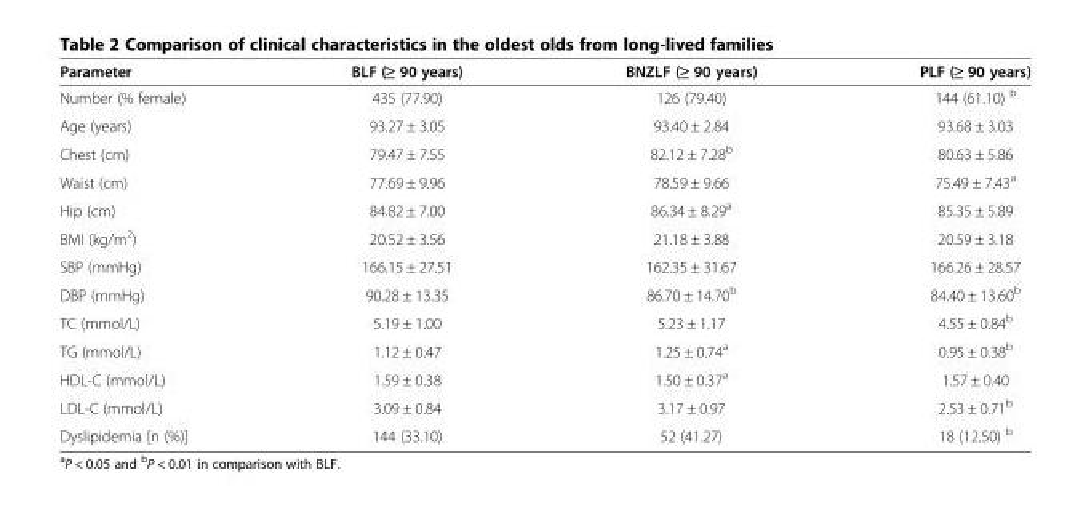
<table><thead><tr><td>Parameter</td><td>BLF (≥ 90 years)</td><td>BNZLF (≥ 90 years)</td><td>PLF (≥ 90 years)</td></tr></thead><tbody><tr><td>Number (% female)</td><td>435 (77.90)</td><td>126 (79.40)</td><td>144 (61.10) <sup>b</sup></td></tr><tr><td>Age (years)</td><td>93.27 ± 3.05</td><td>93.40 ± 2.84</td><td>93.68 ± 3.03</td></tr><tr><td>Chest (cm)</td><td>79.47 ± 7.55</td><td>82.12 ± 7.28<sup>b</sup></td><td>80.63 ± 5.86</td></tr><tr><td>Waist (cm)</td><td>77.69 ± 9.96</td><td>78.59 ± 9.66</td><td>75.49 ± 7.43<sup>a</sup></td></tr><tr><td>Hip (cm)</td><td>84.82 ± 7.00</td><td>86.34 ± 8.29<sup>a</sup></td><td>85.35 ± 5.89</td></tr><tr><td>BMI (kg/m<sup>2</sup>)</td><td>20.52 ± 3.56</td><td>21.18 ± 3.88</td><td>20.59 ± 3.18</td></tr><tr><td>SBP (mmHg)</td><td>166.15 ± 27.51</td><td>162.35 ± 31.67</td><td>166.26 ± 28.57</td></tr><tr><td>DBP (mmHg)</td><td>90.28 ± 13.35</td><td>86.70 ± 14.70<sup>b</sup></td><td>84.40 ± 13.60<sup>b</sup></td></tr><tr><td>TC (mmol/L)</td><td>5.19 ± 1.00</td><td>5.23 ± 1.17</td><td>4.55 ± 0.84<sup>b</sup></td></tr><tr><td>TG (mmol/L)</td><td>1.12 ± 0.47</td><td>1.25 ± 0.74<sup>a</sup></td><td>0.95 ± 0.38<sup>b</sup></td></tr><tr><td>HDL-C (mmol/L)</td><td>1.59 ± 0.38</td><td>1.50 ± 0.37<sup>a</sup></td><td>1.57 ± 0.40</td></tr><tr><td>LDL-C (mmol/L)</td><td>3.09 ± 0.84</td><td>3.17 ± 0.97</td><td>2.53 ± 0.71<sup>b</sup></td></tr><tr><td>Dyslipidemia [n (%)]</td><td>144 (33.10)</td><td>52 (41.27)</td><td>18 (12.50) <sup>b</sup></td></tr></tbody></table>